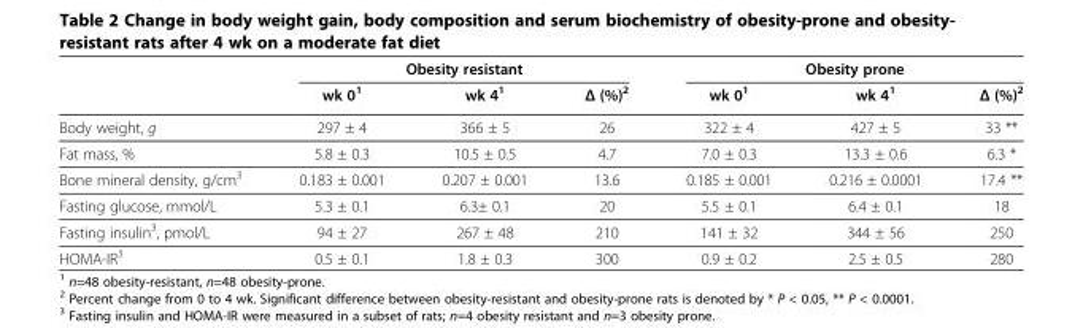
<table><thead><tr><td rowspan="2"></td><td colspan="3">Obesity resistant</td><td colspan="3">Obesity prone</td></tr><tr><td>wk 0<sup>1</sup></td><td>wk 4<sup>1</sup></td><td>Δ (%)<sup>2</sup></td><td>wk 0<sup>1</sup></td><td>wk 4<sup>1</sup></td><td>Δ (%)<sup>2</sup></td></tr></thead><tbody><tr><td>Body weight, g</td><td>297 ± 4</td><td>366 ± 5</td><td>26</td><td>322 ± 4</td><td>427 ± 5</td><td>33 **</td></tr><tr><td>Fat mass, %</td><td>5.8 ± 0.3</td><td>10.5 ± 0.5</td><td>4.7</td><td>7.0 ± 0.3</td><td>13.3 ± 0.6</td><td>6.3 *</td></tr><tr><td>Bone mineral density, g/cm<sup>3</sup></td><td>0.183 ± 0.001</td><td>0.207 ± 0.001</td><td>13.6</td><td>0.185 ± 0.001</td><td>0.216 ± 0.0001</td><td>17.4 **</td></tr><tr><td>Fasting glucose, mmol/L</td><td>5.3 ± 0.1</td><td>6.3± 0.1</td><td>20</td><td>5.5 ± 0.1</td><td>6.4 ± 0.1</td><td>18</td></tr><tr><td>Fasting insulin<sup>3</sup>, pmol/L</td><td>94 ± 27</td><td>267 ± 48</td><td>210</td><td>141 ± 32</td><td>344 ± 56</td><td>250</td></tr><tr><td>HOMA-IR<sup>3</sup></td><td>0.5 ± 0.1</td><td>1.8 ± 0.3</td><td>300</td><td>0.9 ± 0.2</td><td>2.5 ± 0.5</td><td>280</td></tr></tbody></table>